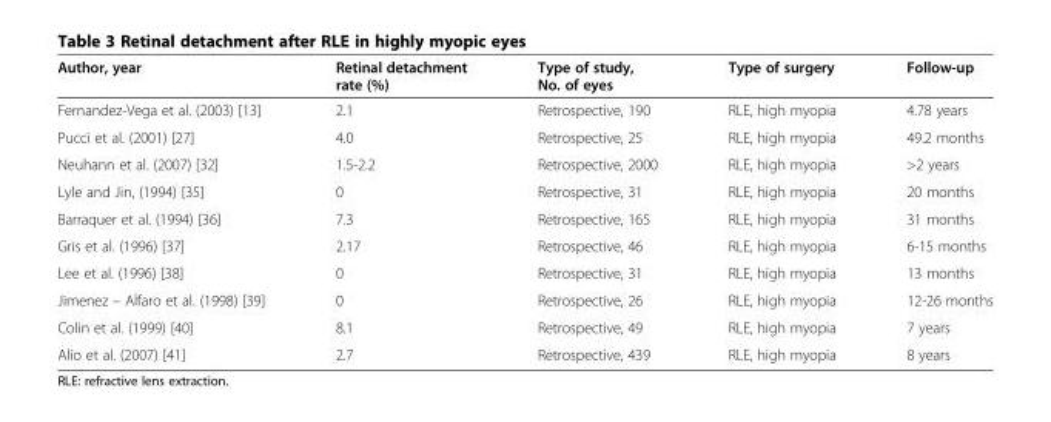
<table><thead><tr><td>Author, year</td><td>Retinal detachment rate (%)</td><td>Type of study, No. of eyes</td><td>Type of surgery</td><td>Follow-up</td></tr></thead><tbody><tr><td>Fernandez-Vega et al. (2003) [13]</td><td>2.1</td><td>Retrospective, 190</td><td>RLE, high myopia</td><td>4.78 years</td></tr><tr><td>Pucci et al. (2001) [27]</td><td>4.0</td><td>Retrospective, 25</td><td>RLE, high myopia</td><td>49.2 months</td></tr><tr><td>Neuhann et al. (2007) [32]</td><td>1.5-2.2</td><td>Retrospective, 2000</td><td>RLE, high myopia</td><td>&gt;2 years</td></tr><tr><td>Lyle and Jin, (1994) [35]</td><td>0</td><td>Retrospective, 31</td><td>RLE, high myopia</td><td>20 months</td></tr><tr><td>Barraquer et al. (1994) [36]</td><td>7.3</td><td>Retrospective, 165</td><td>RLE, high myopia</td><td>31 months</td></tr><tr><td>Gris et al. (1996) [37]</td><td>2.17</td><td>Retrospective, 46</td><td>RLE, high myopia</td><td>6-15 months</td></tr><tr><td>Lee et al. (1996) [38]</td><td>0</td><td>Retrospective, 31</td><td>RLE, high myopia</td><td>13 months</td></tr><tr><td>Jimenez – Alfaro et al. (1998) [39]</td><td>0</td><td>Retrospective, 26</td><td>RLE, high myopia</td><td>12-26 months</td></tr><tr><td>Colin et al. (1999) [40]</td><td>8.1</td><td>Retrospective, 49</td><td>RLE, high myopia</td><td>7 years</td></tr><tr><td>Alio et al. (2007) [41]</td><td>2.7</td><td>Retrospective, 439</td><td>RLE, high myopia</td><td>8 years</td></tr></tbody></table>